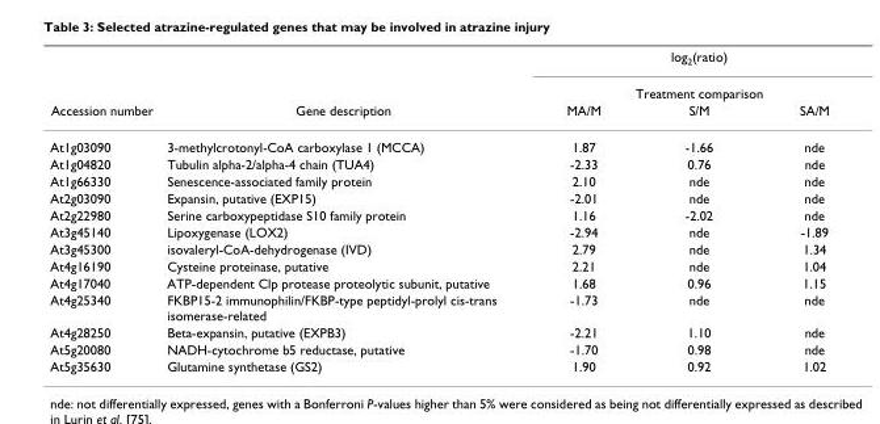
<table><thead><tr><td rowspan="3">Accession number</td><td rowspan="3">Gene description</td><td rowspan="2" colspan="3">log<sub>2</sub>(ratio) Treatment comparison</td></tr><tr></tr><tr><td>MA/M</td><td>S/M</td><td>SA/M</td></tr></thead><tbody><tr><td>At1g03090</td><td>3-methylcrotonyl-CoA carboxylase 1 (MCCA)</td><td>1.87</td><td>-1.66</td><td>nde</td></tr><tr><td>At1g04820</td><td>Tubulin alpha-2/alpha-4 chain (TUA4)</td><td>-2.33</td><td>0.76</td><td>nde</td></tr><tr><td>At1g66330</td><td>Senescence-associated family protein</td><td>2.10</td><td>nde</td><td>nde</td></tr><tr><td>At2g03090</td><td>Expansin, putative (EXP15)</td><td>-2.01</td><td>nde</td><td>nde</td></tr><tr><td>At2g22980</td><td>Serine carboxypeptidase S10 family protein</td><td>1.16</td><td>-2.02</td><td>nde</td></tr><tr><td>At3g45140</td><td>Lipoxygenase (LOX2)</td><td>-2.94</td><td>nde</td><td>-1.89</td></tr><tr><td>At3g45300</td><td>isovaleryl-CoA-dehydrogenase (IVD)</td><td>2.79</td><td>nde</td><td>1.34</td></tr><tr><td>At4g16190</td><td>Cysteine proteinase, putative</td><td>2.21</td><td>nde</td><td>1.04</td></tr><tr><td>At4g17040</td><td>ATP-dependent Clp protease proteolytic subunit, putative</td><td>1.68</td><td>0.96</td><td>1.15</td></tr><tr><td>At4g25340</td><td>FKBP15-2 immunophilin/FKBP-type peptidyl-prolyl cis-trans isomerase-related</td><td>-1.73</td><td>nde</td><td>nde</td></tr><tr><td>At4g28250</td><td>Beta-expansin, putative (EXPB3)</td><td>-2.21</td><td>1.10</td><td>nde</td></tr><tr><td>At5g20080</td><td>NADH-cytochrome b5 reductase, putative</td><td>-1.70</td><td>0.98</td><td>nde</td></tr><tr><td>At5g35630</td><td>Glutamine synthetase (GS2)</td><td>1.90</td><td>0.92</td><td>1.02</td></tr></tbody></table>